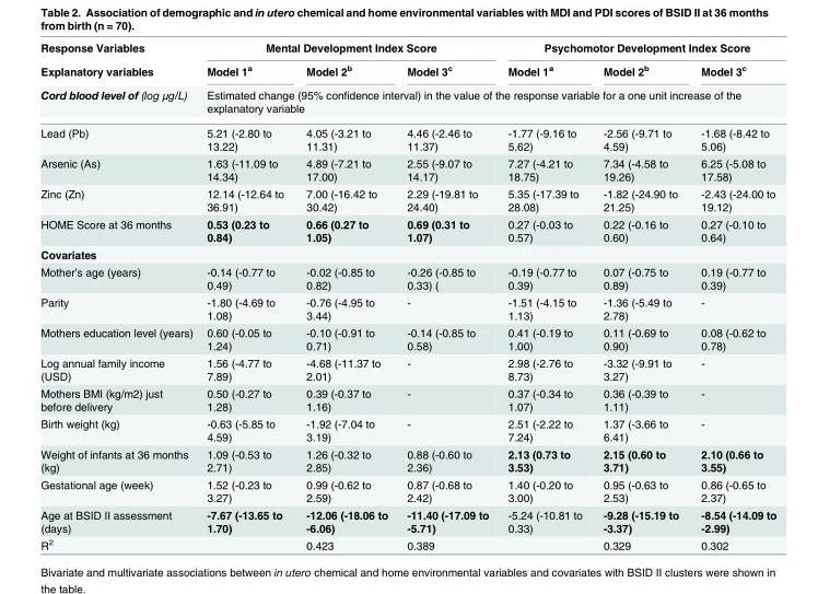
<table><thead><tr><td rowspan="3">Response Variables Explanatory variables Cord blood level of (log μg/L)</td><td colspan="3">Mental Development Index Score</td><td colspan="3">Psychomotor Development Index Score</td></tr><tr><td>Model 1<sup>a</sup></td><td>Model 2<sup>b</sup></td><td>Model 3<sup>c</sup></td><td>Model 1<sup>a</sup></td><td>Model 2<sup>b</sup></td><td>Model 3<sup>c</sup></td></tr><tr><td colspan="6">Estimated change (95% confidence interval) in the value of the response variable for a one unit increase of the explanatory variable</td></tr></thead><tbody><tr><td>Lead (Pb)</td><td>5.21 (-2.80 to 13.22)</td><td>4.05 (-3.21 to 11.31)</td><td>4.46 (-2.46 to 11.37)</td><td>-1.77 (-9.16 to 5.62)</td><td>-2.56 (-9.71 to 4.59)</td><td>-1.68 (-8.42 to 5.06)</td></tr><tr><td>Arsenic (As)</td><td>1.63 (-11.09 to 14.34)</td><td>4.89 (-7.21 to 17.00)</td><td>2.55 (-9.07 to 14.17)</td><td>7.27 (-4.21 to 18.75)</td><td>7.34 (-4.58 to 19.26)</td><td>6.25 (-5.08 to 17.58)</td></tr><tr><td>Zinc (Zn)</td><td>12.14 (-12.64 to 36.91)</td><td>7.00 (-16.42 to 30.42)</td><td>2.29 (-19.81 to 24.40)</td><td>5.35 (-17.39 to 28.08)</td><td>-1.82 (-24.90 to 21.25)</td><td>-2.43 (-24.00 to 19.12)</td></tr><tr><td>HOME Score at 36 months</td><td>0.53 (0.23 to 0.84)</td><td>0.66 (0.27 to 1.05)</td><td>0.69 (0.31 to 1.07)</td><td>0.27 (-0.03 to 0.57)</td><td>0.22 (-0.16 to 0.60)</td><td>0.27 (-0.10 to 0.64)</td></tr><tr><td colspan="7">Covariates</td></tr><tr><td>Mother’s age (years)</td><td>-0.14 (-0.77 to 0.49)</td><td>-0.02 (-0.85 to 0.82)</td><td>-0.26 (-0.85 to 0.33) (</td><td>-0.19 (-0.77 to 0.39)</td><td>0.07 (-0.75 to 0.89)</td><td>0.19 (-0.77 to 0.39)</td></tr><tr><td>Parity</td><td>-1.80 (-4.69 to 1.08)</td><td>-0.76 (-4.95 to 3.44)</td><td>-</td><td>-1.51 (-4.15 to 1.13)</td><td>-1.36 (-5.49 to 2.78)</td><td>-</td></tr><tr><td>Mothers education level (years)</td><td>0.60 (-0.05 to 1.24)</td><td>-0.10 (-0.91 to 0.71)</td><td>-0.14 (-0.85 to 0.58)</td><td>0.41 (-0.19 to 1.00)</td><td>0.11 (-0.69 to 0.90)</td><td>0.08 (-0.62 to 0.78)</td></tr><tr><td>Log annual family income (USD)</td><td>1.56 (-4.77 to 7.89)</td><td>-4.68 (-11.37 to 2.01)</td><td>-</td><td>2.98 (-2.76 to 8.73)</td><td>-3.32 (-9.91 to 3.27)</td><td>-</td></tr><tr><td>Mothers BMI (kg/m2) just before delivery</td><td>0.50 (-0.27 to 1.28)</td><td>0.39 (-0.37 to 1.16)</td><td>-</td><td>0.37 (-0.34 to 1.07)</td><td>0.36 (-0.39 to 1.11)</td><td>-</td></tr><tr><td>Birth weight (kg)</td><td>-0.63 (-5.85 to 4.59)</td><td>-1.92 (-7.04 to 3.19)</td><td>-</td><td>2.51 (-2.22 to 7.24)</td><td>1.37 (-3.66 to 6.41)</td><td>-</td></tr><tr><td>Weight of infants at 36 months (kg)</td><td>1.09 (-0.53 to 2.71)</td><td>1.26 (-0.32 to 2.85)</td><td>0.88 (-0.60 to 2.36)</td><td>2.13 (0.73 to 3.53)</td><td>2.15 (0.60 to 3.71)</td><td>2.10 (0.66 to 3.55)</td></tr><tr><td>Gestational age (week)</td><td>1.52 (-0.23 to 3.27)</td><td>0.99 (-0.62 to 2.59)</td><td>0.87 (-0.68 to 2.42)</td><td>1.40 (-0.20 to 3.00)</td><td>0.95 (-0.63 to 2.53)</td><td>0.86 (-0.65 to 2.37)</td></tr><tr><td>Age at BSID II assessment (days)</td><td>-7.67 (-13.65 to 1.70)</td><td>-12.06 (-18.06 to -6.06)</td><td>-11.40 (-17.09 to -5.71)</td><td>-5.24 (-10.81 to 0.33)</td><td>-9.28 (-15.19 to -3.37)</td><td>-8.54 (-14.09 to -2.99)</td></tr><tr><td>R<sup>2</sup></td><td></td><td>0.423</td><td>0.389</td><td></td><td>0.329</td><td>0.302</td></tr></tbody></table>